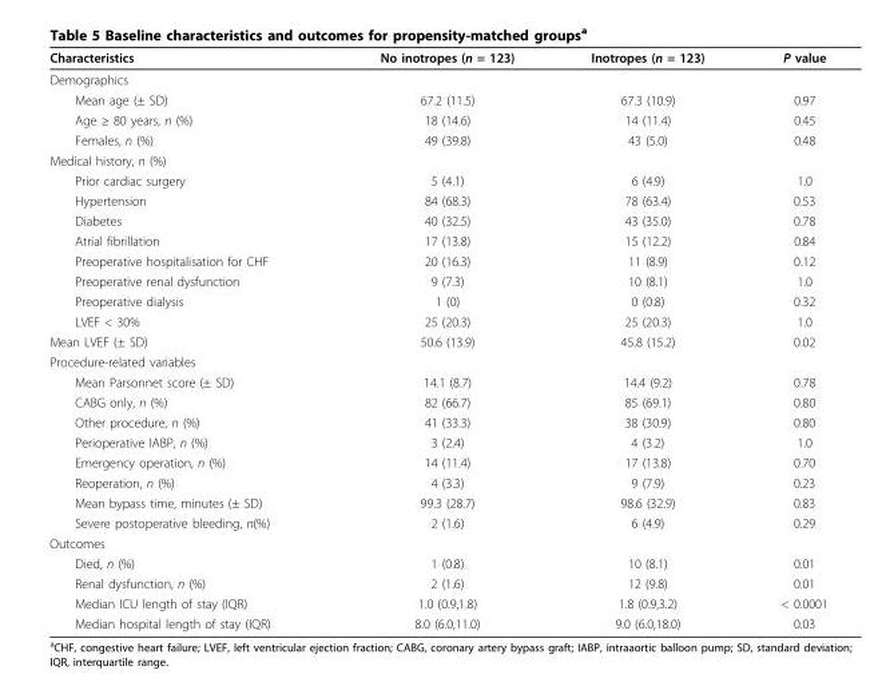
<table><thead><tr><td>Characteristics</td><td>No inotropes (n = 123)</td><td>Inotropes (n = 123)</td><td>P value</td></tr></thead><tbody><tr><td colspan="4">Demographics</td></tr><tr><td>Mean age (± SD)</td><td>67.2 (11.5)</td><td>67.3 (10.9)</td><td>0.97</td></tr><tr><td>Age ≥ 80 years, n (%)</td><td>18 (14.6)</td><td>14 (11.4)</td><td>0.45</td></tr><tr><td>Females, n (%)</td><td>49 (39.8)</td><td>43 (5.0)</td><td>0.48</td></tr><tr><td colspan="4">Medical history, n (%)</td></tr><tr><td>Prior cardiac surgery</td><td>5 (4.1)</td><td>6 (4.9)</td><td>1.0</td></tr><tr><td>Hypertension</td><td>84 (68.3)</td><td>78 (63.4)</td><td>0.53</td></tr><tr><td>Diabetes</td><td>40 (32.5)</td><td>43 (35.0)</td><td>0.78</td></tr><tr><td>Atrial fibrillation</td><td>17 (13.8)</td><td>15 (12.2)</td><td>0.84</td></tr><tr><td>Preoperative hospitalisation for CHF</td><td>20 (16.3)</td><td>11 (8.9)</td><td>0.12</td></tr><tr><td>Preoperative renal dysfunction</td><td>9 (7.3)</td><td>10 (8.1)</td><td>1.0</td></tr><tr><td>Preoperative dialysis</td><td>1 (0)</td><td>0 (0.8)</td><td>0.32</td></tr><tr><td>LVEF &lt; 30%</td><td>25 (20.3)</td><td>25 (20.3)</td><td>1.0</td></tr><tr><td>Mean LVEF (± SD)</td><td>50.6 (13.9)</td><td>45.8 (15.2)</td><td>0.02</td></tr><tr><td colspan="4">Procedure-related variables</td></tr><tr><td>Mean Parsonnet score (± SD)</td><td>14.1 (8.7)</td><td>14.4 (9.2)</td><td>0.78</td></tr><tr><td>CABG only, n (%)</td><td>82 (66.7)</td><td>85 (69.1)</td><td>0.80</td></tr><tr><td>Other procedure, n (%)</td><td>41 (33.3)</td><td>38 (30.9)</td><td>0.80</td></tr><tr><td>Perioperative IABP, n (%)</td><td>3 (2.4)</td><td>4 (3.2)</td><td>1.0</td></tr><tr><td>Emergency operation, n (%)</td><td>14 (11.4)</td><td>17 (13.8)</td><td>0.70</td></tr><tr><td>Reoperation, n (%)</td><td>4 (3.3)</td><td>9 (7.9)</td><td>0.23</td></tr><tr><td>Mean bypass time, minutes (± SD)</td><td>99.3 (28.7)</td><td>98.6 (32.9)</td><td>0.83</td></tr><tr><td>Severe postoperative bleeding, n(%)</td><td>2 (1.6)</td><td>6 (4.9)</td><td>0.29</td></tr><tr><td colspan="4">Outcomes</td></tr><tr><td>Died, n (%)</td><td>1 (0.8)</td><td>10 (8.1)</td><td>0.01</td></tr><tr><td>Renal dysfunction, n (%)</td><td>2 (1.6)</td><td>12 (9.8)</td><td>0.01</td></tr><tr><td>Median ICU length of stay (IQR)</td><td>1.0 (0.9,1.8)</td><td>1.8 (0.9,3.2)</td><td>&lt; 0.0001</td></tr><tr><td>Median hospital length of stay (IQR)</td><td>8.0 (6.0,11.0)</td><td>9.0 (6.0,18.0)</td><td>0.03</td></tr></tbody></table>